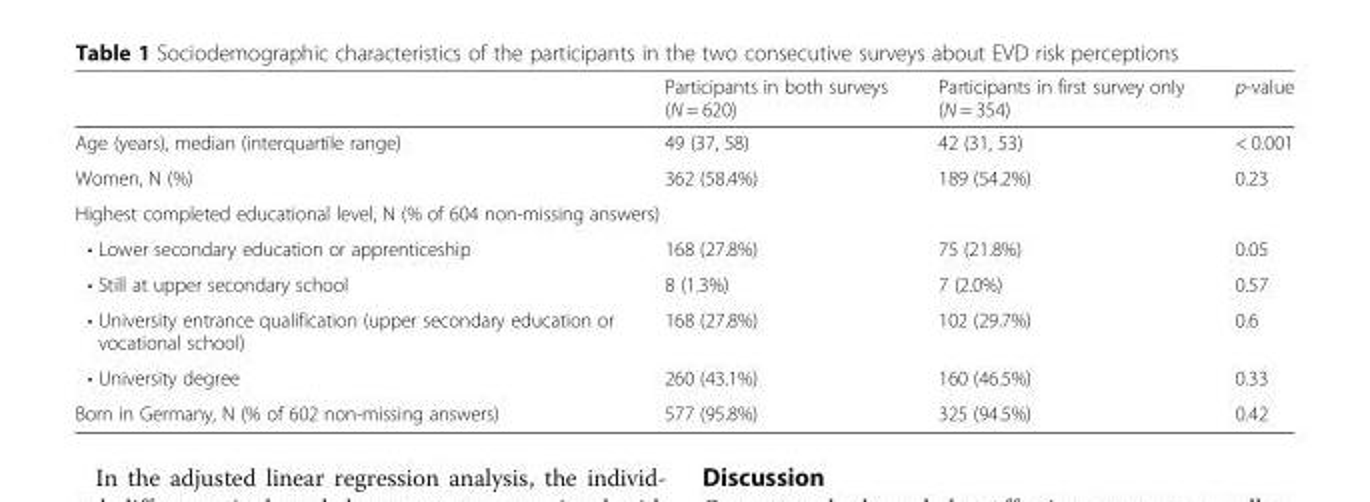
<table><thead><tr><td></td><td>Participants in both surveys (N = 620)</td><td>Participants in first survey only (N = 354)</td><td>p-value</td></tr></thead><tbody><tr><td>Age (years), median (interquartile range)</td><td>49 (37, 58)</td><td>42 (31, 53)</td><td>&lt; 0.001</td></tr><tr><td>Women, N (%)</td><td>362 (58.4%)</td><td>189 (54.2%)</td><td>0.23</td></tr><tr><td colspan="4">Highest completed educational level, N (% of 604 non-missing answers)</td></tr><tr><td>• Lower secondary education or apprenticeship</td><td>168 (27.8%)</td><td>75 (21.8%)</td><td>0.05</td></tr><tr><td>• Still at upper secondary school</td><td>8 (1.3%)</td><td>7 (2.0%)</td><td>0.57</td></tr><tr><td>• University entrance qualification (upper secondary education or vocational school)</td><td>168 (27.8%)</td><td>102 (29.7%)</td><td>0.6</td></tr><tr><td>• University degree</td><td>260 (43.1%)</td><td>160 (46.5%)</td><td>0.33</td></tr><tr><td>Born in Germany, N (% of 602 non-missing answers)</td><td>577 (95.8%)</td><td>325 (94.5%)</td><td>0.42</td></tr></tbody></table>